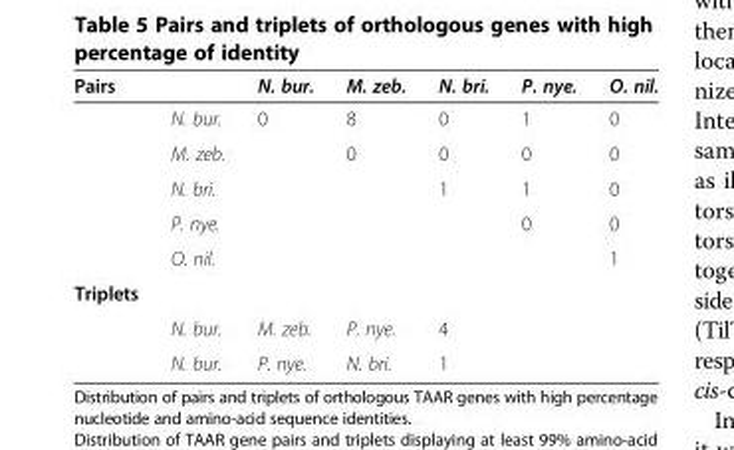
<table><thead><tr><td>Pairs</td><td></td><td>N. bur.</td><td>M. zeb.</td><td>N. bri.</td><td>P. nye.</td><td>O. nil.</td></tr></thead><tbody><tr><td></td><td>N. bur.</td><td>0</td><td>8</td><td>0</td><td>1</td><td>0</td></tr><tr><td></td><td>M. zeb.</td><td></td><td>0</td><td>0</td><td>0</td><td>0</td></tr><tr><td></td><td>N. bri.</td><td></td><td></td><td>1</td><td>1</td><td>0</td></tr><tr><td></td><td>P. nye.</td><td></td><td></td><td></td><td>0</td><td>0</td></tr><tr><td></td><td>O. nil.</td><td></td><td></td><td></td><td></td><td>1</td></tr><tr><td colspan="7">Triplets</td></tr><tr><td></td><td>N. bur.</td><td>M. zeb.</td><td>P. nye.</td><td>4</td><td></td><td></td></tr><tr><td></td><td>N. bur.</td><td>P. nye.</td><td>N. bri.</td><td>1</td><td></td><td></td></tr></tbody></table>